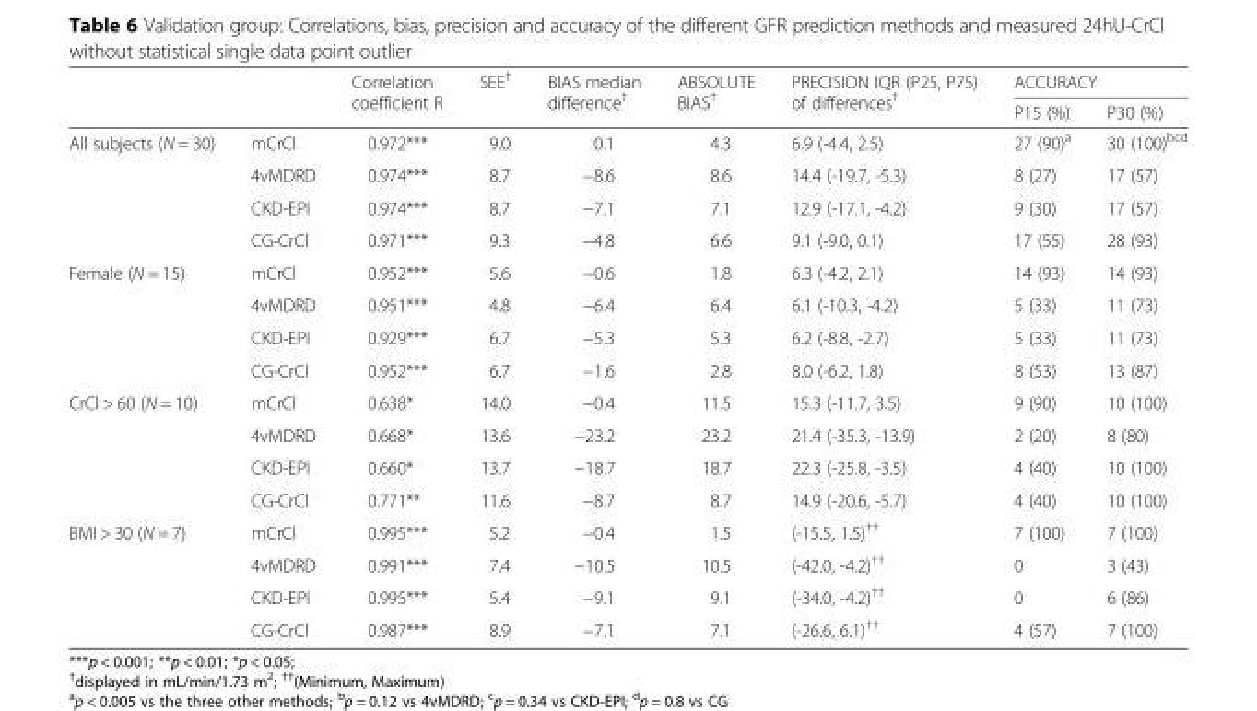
<table><thead><tr><td rowspan="2"></td><td rowspan="2"></td><td rowspan="2">Correlation coefficient R</td><td rowspan="2">SEE<sup>†</sup></td><td rowspan="2">BIAS median difference<sup>†</sup></td><td rowspan="2">ABSOLUTE BIAS<sup>†</sup></td><td rowspan="2">PRECISION IQR (P25, P75) of differences<sup>†</sup></td><td colspan="2">ACCURACY</td></tr><tr><td>P15 (%)</td><td>P30 (%)</td></tr></thead><tbody><tr><td rowspan="4">All subjects (N = 30)</td><td>mCrCl</td><td>0.972***</td><td>9.0</td><td>0.1</td><td>4.3</td><td>6.9 (-4.4, 2.5)</td><td>27 (90)<sup>a</sup></td><td>30 (100)<sup>bcd</sup></td></tr><tr><td>4vMDRD</td><td>0.974***</td><td>8.7</td><td>−8.6</td><td>8.6</td><td>14.4 (-19.7, -5.3)</td><td>8 (27)</td><td>17 (57)</td></tr><tr><td>CKD-EPI</td><td>0.974***</td><td>8.7</td><td>−7.1</td><td>7.1</td><td>12.9 (-17.1, -4.2)</td><td>9 (30)</td><td>17 (57)</td></tr><tr><td>CG-CrCl</td><td>0.971***</td><td>9.3</td><td>−4.8</td><td>6.6</td><td>9.1 (-9.0, 0.1)</td><td>17 (55)</td><td>28 (93)</td></tr><tr><td rowspan="4">Female (N = 15)</td><td>mCrCl</td><td>0.952***</td><td>5.6</td><td>−0.6</td><td>1.8</td><td>6.3 (-4.2, 2.1)</td><td>14 (93)</td><td>14 (93)</td></tr><tr><td>4vMDRD</td><td>0.951***</td><td>4.8</td><td>−6.4</td><td>6.4</td><td>6.1 (-10.3, -4.2)</td><td>5 (33)</td><td>11 (73)</td></tr><tr><td>CKD-EPI</td><td>0.929***</td><td>6.7</td><td>−5.3</td><td>5.3</td><td>6.2 (-8.8, -2.7)</td><td>5 (33)</td><td>11 (73)</td></tr><tr><td>CG-CrCl</td><td>0.952***</td><td>6.7</td><td>−1.6</td><td>2.8</td><td>8.0 (-6.2, 1.8)</td><td>8 (53)</td><td>13 (87)</td></tr><tr><td rowspan="4">CrCl &gt; 60 (N = 10)</td><td>mCrCl</td><td>0.638*</td><td>14.0</td><td>−0.4</td><td>11.5</td><td>15.3 (-11.7, 3.5)</td><td>9 (90)</td><td>10 (100)</td></tr><tr><td>4vMDRD</td><td>0.668*</td><td>13.6</td><td>−23.2</td><td>23.2</td><td>21.4 (-35.3, -13.9)</td><td>2 (20)</td><td>8 (80)</td></tr><tr><td>CKD-EPI</td><td>0.660*</td><td>13.7</td><td>−18.7</td><td>18.7</td><td>22.3 (-25.8, -3.5)</td><td>4 (40)</td><td>10 (100)</td></tr><tr><td>CG-CrCl</td><td>0.771**</td><td>11.6</td><td>−8.7</td><td>8.7</td><td>14.9 (-20.6, -5.7)</td><td>4 (40)</td><td>10 (100)</td></tr><tr><td rowspan="4">BMI &gt; 30 (N = 7)</td><td>mCrCl</td><td>0.995***</td><td>5.2</td><td>−0.4</td><td>1.5</td><td>(-15.5, 1.5)<sup>††</sup></td><td>7 (100)</td><td>7 (100)</td></tr><tr><td>4vMDRD</td><td>0.991***</td><td>7.4</td><td>−10.5</td><td>10.5</td><td>(-42.0, -4.2)<sup>††</sup></td><td>0</td><td>3 (43)</td></tr><tr><td>CKD-EPI</td><td>0.995***</td><td>5.4</td><td>−9.1</td><td>9.1</td><td>(-34.0, -4.2)<sup>††</sup></td><td>0</td><td>6 (86)</td></tr><tr><td>CG-CrCl</td><td>0.987***</td><td>8.9</td><td>−7.1</td><td>7.1</td><td>(-26.6, 6.1)<sup>††</sup></td><td>4 (57)</td><td>7 (100)</td></tr></tbody></table>